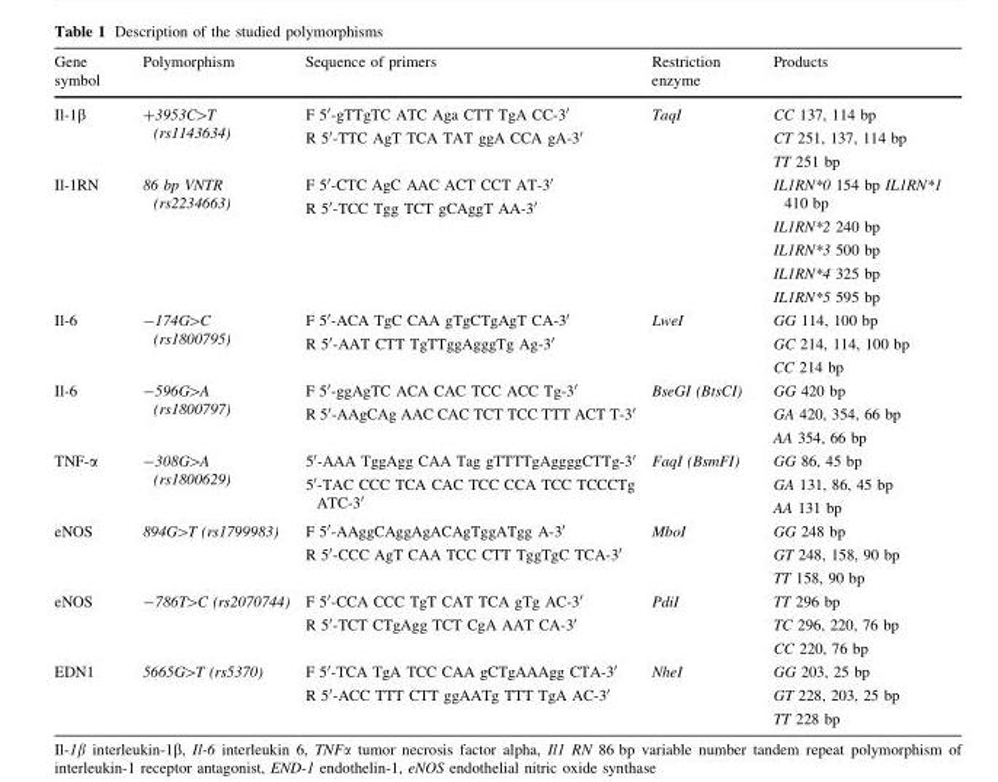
<table><thead><tr><td>Gene symbol</td><td>Polymorphism</td><td>Sequence of primers</td><td>Restriction enzyme</td><td>Products</td></tr></thead><tbody><tr><td>Il-1β</td><td>+3953C&gt;T (rs1143634)</td><td>F 5′-gTTgTC ATC Aga CTT TgA CC-3′ R 5′-TTC AgT TCA TAT ggA CCA gA-3′</td><td>TaqI</td><td>CC 137, 114 bp CT 251, 137, 114 bp TT 251 bp</td></tr><tr><td>Il-1RN</td><td>86 bp VNTR (rs2234663)</td><td>F 5′-CTC AgC AAC ACT CCT AT-3′ R 5′-TCC Tgg TCT gCAggT AA-3′</td><td></td><td>IL1RN*0 154 bp IL1RN*1 410 bp IL1RN*2 240 bp IL1RN*3 500 bp IL1RN*4 325 bp IL1RN*5 595 bp</td></tr><tr><td>Il-6</td><td>-174G&gt;C (rs1800795)</td><td>F 5′-ACA TgC CAA gTgCTgAgT CA-3′ R 5′-AAT CTT TgTTggAgggTg Ag-3′</td><td>LweI</td><td>GG 114, 100 bp GC 214, 114, 100 bp CC 214 bp</td></tr><tr><td>Il-6</td><td>-596G&gt;A (rs1800797)</td><td>F 5′-ggAgTC ACA CAC TCC ACC Tg-3′ R 5′-AAgCAg AAC CAC TCT TCC TTT ACT T-3′</td><td>BseGI (BtsCI)</td><td>GG 420 bp GA 420, 354, 66 bp AA 354, 66 bp</td></tr><tr><td>TNF-α</td><td>-308G&gt;A (rs1800629)</td><td>5′-AAA TggAgg CAA Tag gTTTTgAggggCTTg-3′ 5′-TAC CCC TCA CAC TCC CCA TCC TCCCTg ATC-3′</td><td>FaqI (BsmFI)</td><td>GG 86, 45 bp GA 131, 86, 45 bp AA 131 bp</td></tr><tr><td>eNOS</td><td>894G&gt;T (rs1799983)</td><td>F 5′-AAggCAggAgACAgTggATgg A-3′ R 5′-CCC AgT CAA TCC CTT TggTgC TCA-3′</td><td>MboI</td><td>GG 248 bp GT 248, 158, 90 bp TT 158, 90 bp</td></tr><tr><td>eNOS</td><td>-786T&gt;C (rs2070744)</td><td>F 5′-CCA CCC TgT CAT TCA gTg AC-3′ R 5′-TCT CTgAgg TCT CgA AAT CA-3′</td><td>PdiI</td><td>TT 296 bp TC 296, 220, 76 bp CC 220, 76 bp</td></tr><tr><td>EDN1</td><td>5665G&gt;T (rs5370)</td><td>F 5′-TCA TgA TCC CAA gCTgAAAgg CTA-3′ R 5′-ACC TTT CTT ggAATg TTT TgA AC-3′</td><td>NheI</td><td>GG 203, 25 bp GT 228, 203, 25 bp TT 228 bp</td></tr></tbody></table>